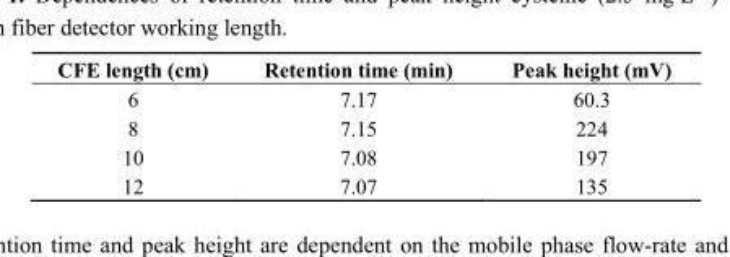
<table><thead><tr><td>CFE length (cm)</td><td>Retention time (min)</td><td>Peak height (mV)</td></tr></thead><tbody><tr><td>6</td><td>7.17</td><td>60.3</td></tr><tr><td>8</td><td>7.15</td><td>224</td></tr><tr><td>10</td><td>7.08</td><td>197</td></tr><tr><td>12</td><td>7.07</td><td>135</td></tr></tbody></table>